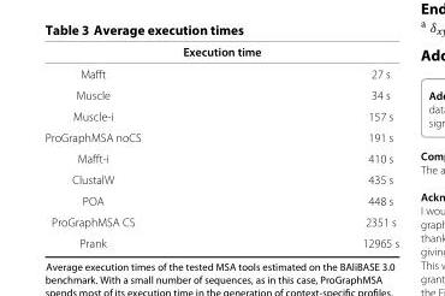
<table><thead><tr><td colspan="2">Execution time</td></tr><tr><td>Mafft</td><td>27 s</td></tr></thead><tbody><tr><td>Muscle</td><td>34 s</td></tr><tr><td>Muscle-i</td><td>157 s</td></tr><tr><td>ProGraphMSA noCS</td><td>191 s</td></tr><tr><td>Mafft-i</td><td>410 s</td></tr><tr><td>ClustalW</td><td>435 s</td></tr><tr><td>POA</td><td>448 s</td></tr><tr><td>ProGraphMSA CS</td><td>2351 s</td></tr><tr><td>Prank</td><td>12965 s</td></tr></tbody></table>